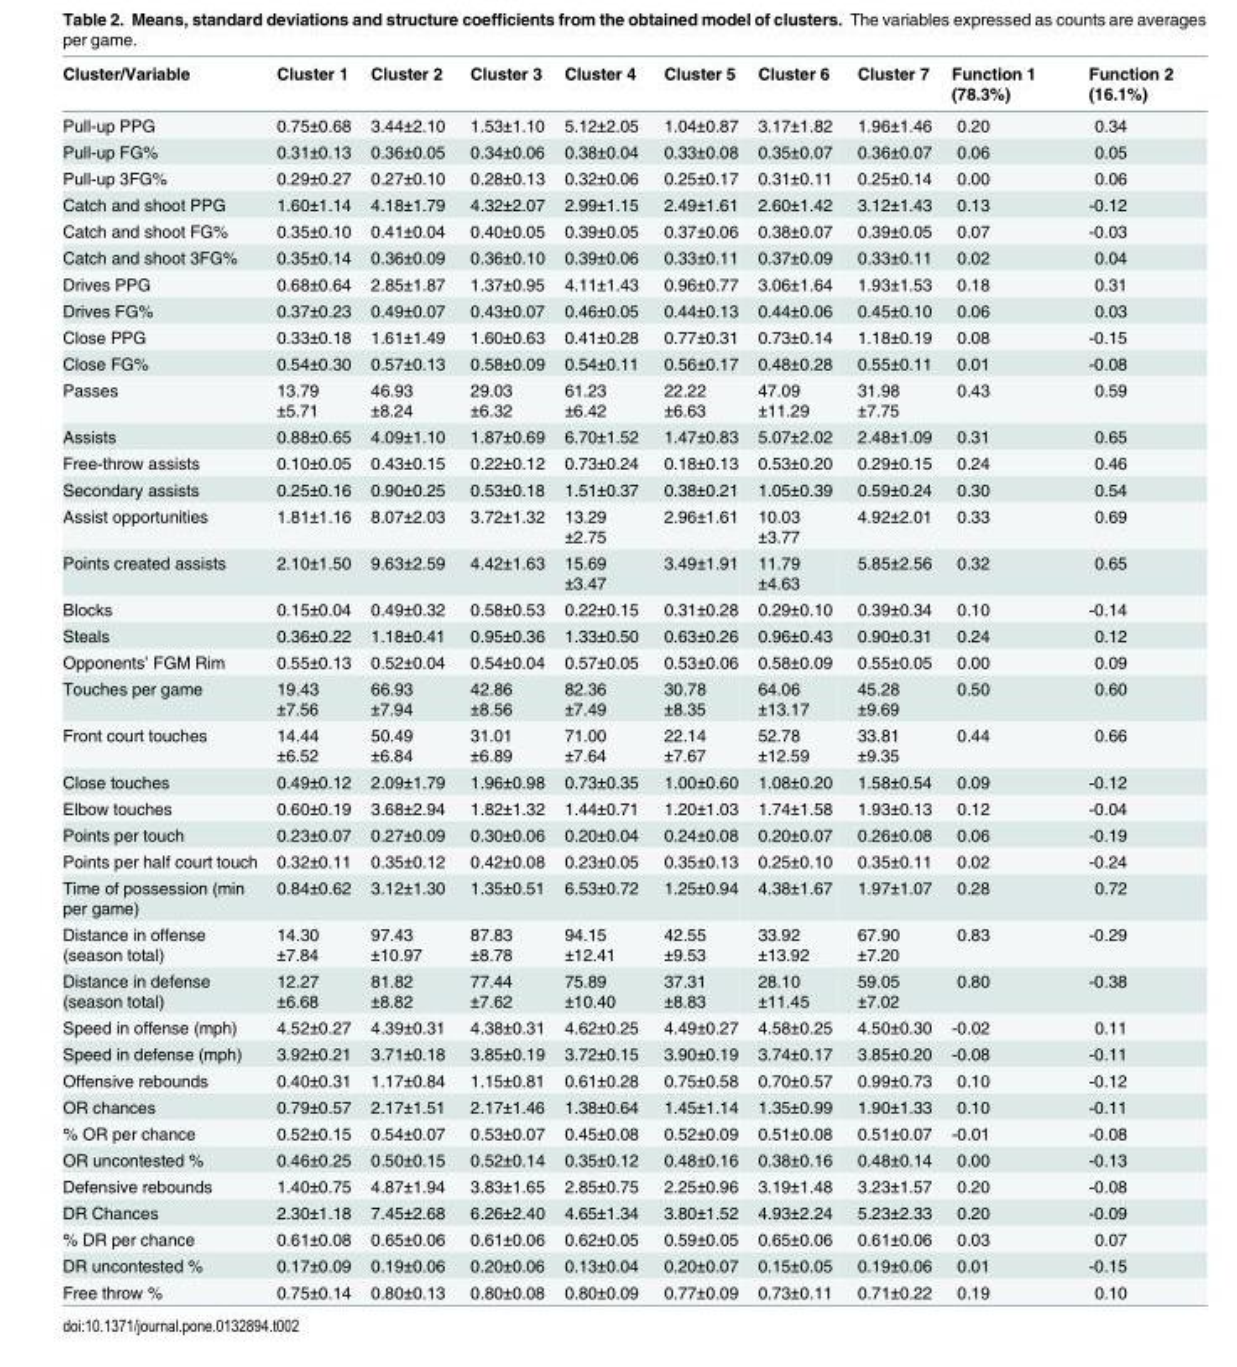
<table><thead><tr><td>Cluster/Variable</td><td>Cluster 1</td><td>Cluster 2</td><td>Cluster 3</td><td>Cluster 4</td><td>Cluster 5</td><td>Cluster 6</td><td>Cluster 7</td><td>Function 1 (78.3%)</td><td>Function 2 (16.1%)</td></tr></thead><tbody><tr><td>Pull-up PPG</td><td>0.75±0.68</td><td>3.44±2.10</td><td>1.53±1.10</td><td>5.12±2.05</td><td>1.04±0.87</td><td>3.17±1.82</td><td>1.96±1.46</td><td>0.20</td><td>0.34</td></tr><tr><td>Pull-up FG%</td><td>0.31±0.13</td><td>0.36±0.05</td><td>0.34±0.06</td><td>0.38±0.04</td><td>0.33±0.08</td><td>0.35±0.07</td><td>0.36±0.07</td><td>0.06</td><td>0.05</td></tr><tr><td>Pull-up 3FG%</td><td>0.29±0.27</td><td>0.27±0.10</td><td>0.28±0.13</td><td>0.32±0.06</td><td>0.25±0.17</td><td>0.31±0.11</td><td>0.25±0.14</td><td>0.00</td><td>0.06</td></tr><tr><td>Catch and shoot PPG</td><td>1.60±1.14</td><td>4.18±1.79</td><td>4.32±2.07</td><td>2.99±1.15</td><td>2.49±1.61</td><td>2.60±1.42</td><td>3.12±1.43</td><td>0.13</td><td>-0.12</td></tr><tr><td>Catch and shoot FG%</td><td>0.35±0.10</td><td>0.41±0.04</td><td>0.40±0.05</td><td>0.39±0.05</td><td>0.37±0.06</td><td>0.38±0.07</td><td>0.39±0.05</td><td>0.07</td><td>-0.03</td></tr><tr><td>Catch and shoot 3FG%</td><td>0.35±0.14</td><td>0.36±0.09</td><td>0.36±0.10</td><td>0.39±0.06</td><td>0.33±0.11</td><td>0.37±0.09</td><td>0.33±0.11</td><td>0.02</td><td>0.04</td></tr><tr><td>Drives PPG</td><td>0.68±0.64</td><td>2.85±1.87</td><td>1.37±0.95</td><td>4.11±1.43</td><td>0.96±0.77</td><td>3.06±1.64</td><td>1.93±1.53</td><td>0.18</td><td>0.31</td></tr><tr><td>Drives FG%</td><td>0.37±0.23</td><td>0.49±0.07</td><td>0.43±0.07</td><td>0.46±0.05</td><td>0.44±0.13</td><td>0.44±0.06</td><td>0.45±0.10</td><td>0.06</td><td>0.03</td></tr><tr><td>Close PPG</td><td>0.33±0.18</td><td>1.61±1.49</td><td>1.60±0.63</td><td>0.41±0.28</td><td>0.77±0.31</td><td>0.73±0.14</td><td>1.18±0.19</td><td>0.08</td><td>-0.15</td></tr><tr><td>Close FG%</td><td>0.54±0.30</td><td>0.57±0.13</td><td>0.58±0.09</td><td>0.54±0.11</td><td>0.56±0.17</td><td>0.48±0.28</td><td>0.55±0.11</td><td>0.01</td><td>-0.08</td></tr><tr><td>Passes</td><td>13.79 ±5.71</td><td>46.93 ±8.24</td><td>29.03 ±6.32</td><td>61.23 ±6.42</td><td>22.22 ±6.63</td><td>47.09 ±11.29</td><td>31.98 ±7.75</td><td>0.43</td><td>0.59</td></tr><tr><td>Assists</td><td>0.88±0.65</td><td>4.09±1.10</td><td>1.87±0.69</td><td>6.70±1.52</td><td>1.47±0.83</td><td>5.07±2.02</td><td>2.48±1.09</td><td>0.31</td><td>0.65</td></tr><tr><td>Free-throw assists</td><td>0.10±0.05</td><td>0.43±0.15</td><td>0.22±0.12</td><td>0.73±0.24</td><td>0.18±0.13</td><td>0.53±0.20</td><td>0.29±0.15</td><td>0.24</td><td>0.46</td></tr><tr><td>Secondary assists</td><td>0.25±0.16</td><td>0.90±0.25</td><td>0.53±0.18</td><td>1.51±0.37</td><td>0.38±0.21</td><td>1.05±0.39</td><td>0.59±0.24</td><td>0.30</td><td>0.54</td></tr><tr><td>Assist opportunities</td><td>1.81±1.16</td><td>8.07±2.03</td><td>3.72±1.32</td><td>13.29 ±2.75</td><td>2.96±1.61</td><td>10.03 ±3.77</td><td>4.92±2.01</td><td>0.33</td><td>0.69</td></tr><tr><td>Points created assists</td><td>2.10±1.50</td><td>9.63±2.59</td><td>4.42±1.63</td><td>15.69 ±3.47</td><td>3.49±1.91</td><td>11.79 ±4.63</td><td>5.85±2.56</td><td>0.32</td><td>0.65</td></tr><tr><td>Blocks</td><td>0.15±0.04</td><td>0.49±0.32</td><td>0.58±0.53</td><td>0.22±0.15</td><td>0.31±0.28</td><td>0.29±0.10</td><td>0.39±0.34</td><td>0.10</td><td>-0.14</td></tr><tr><td>Steals</td><td>0.36±0.22</td><td>1.18±0.41</td><td>0.95±0.36</td><td>1.33±0.50</td><td>0.63±0.26</td><td>0.96±0.43</td><td>0.90±0.31</td><td>0.24</td><td>0.12</td></tr><tr><td>Opponents’ FGM Rim</td><td>0.55±0.13</td><td>0.52±0.04</td><td>0.54±0.04</td><td>0.57±0.05</td><td>0.53±0.06</td><td>0.58±0.09</td><td>0.55±0.05</td><td>0.00</td><td>0.09</td></tr><tr><td>Touches per game</td><td>19.43 ±7.56</td><td>66.93 ±7.94</td><td>42.86 ±8.56</td><td>82.36 ±7.49</td><td>30.78 ±8.35</td><td>64.06 ±13.17</td><td>45.28 ±9.69</td><td>0.50</td><td>0.60</td></tr><tr><td>Front court touches</td><td>14.44 ±6.52</td><td>50.49 ±6.84</td><td>31.01 ±6.89</td><td>71.00 ±7.64</td><td>22.14 ±7.67</td><td>52.78 ±12.59</td><td>33.81 ±9.35</td><td>0.44</td><td>0.66</td></tr><tr><td>Close touches</td><td>0.49±0.12</td><td>2.09±1.79</td><td>1.96±0.98</td><td>0.73±0.35</td><td>1.00±0.60</td><td>1.08±0.20</td><td>1.58±0.54</td><td>0.09</td><td>-0.12</td></tr><tr><td>Elbow touches</td><td>0.60±0.19</td><td>3.68±2.94</td><td>1.82±1.32</td><td>1.44±0.71</td><td>1.20±1.03</td><td>1.74±1.58</td><td>1.93±0.13</td><td>0.12</td><td>-0.04</td></tr><tr><td>Points per touch</td><td>0.23±0.07</td><td>0.27±0.09</td><td>0.30±0.06</td><td>0.20±0.04</td><td>0.24±0.08</td><td>0.20±0.07</td><td>0.26±0.08</td><td>0.06</td><td>-0.19</td></tr><tr><td>Points per half court touch</td><td>0.32±0.11</td><td>0.35±0.12</td><td>0.42±0.08</td><td>0.23±0.05</td><td>0.35±0.13</td><td>0.25±0.10</td><td>0.35±0.11</td><td>0.02</td><td>-0.24</td></tr><tr><td>Time of possession (min per game)</td><td>0.84±0.62</td><td>3.12±1.30</td><td>1.35±0.51</td><td>6.53±0.72</td><td>1.25±0.94</td><td>4.38±1.67</td><td>1.97±1.07</td><td>0.28</td><td>0.72</td></tr><tr><td>Distance in offense (season total)</td><td>14.30 ±7.84</td><td>97.43 ±10.97</td><td>87.83 ±8.78</td><td>94.15 ±12.41</td><td>42.55 ±9.53</td><td>33.92 ±13.92</td><td>67.90 ±7.20</td><td>0.83</td><td>-0.29</td></tr><tr><td>Distance in defense (season total)</td><td>12.27 ±6.68</td><td>81.82 ±8.82</td><td>77.44 ±7.62</td><td>75.89 ±10.40</td><td>37.31 ±8.83</td><td>28.10 ±11.45</td><td>59.05 ±7.02</td><td>0.80</td><td>-0.38</td></tr><tr><td>Speed in offense (mph)</td><td>4.52±0.27</td><td>4.39±0.31</td><td>4.38±0.31</td><td>4.62±0.25</td><td>4.49±0.27</td><td>4.58±0.25</td><td>4.50±0.30</td><td>-0.02</td><td>0.11</td></tr><tr><td>Speed in defense (mph)</td><td>3.92±0.21</td><td>3.71±0.18</td><td>3.85±0.19</td><td>3.72±0.15</td><td>3.90±0.19</td><td>3.74±0.17</td><td>3.85±0.20</td><td>-0.08</td><td>-0.11</td></tr><tr><td>Offensive rebounds</td><td>0.40±0.31</td><td>1.17±0.84</td><td>1.15±0.81</td><td>0.61±0.28</td><td>0.75±0.58</td><td>0.70±0.57</td><td>0.99±0.73</td><td>0.10</td><td>-0.12</td></tr><tr><td>OR chances</td><td>0.79±0.57</td><td>2.17±1.51</td><td>2.17±1.46</td><td>1.38±0.64</td><td>1.45±1.14</td><td>1.35±0.99</td><td>1.90±1.33</td><td>0.10</td><td>-0.11</td></tr><tr><td>% OR per chance</td><td>0.52±0.15</td><td>0.54±0.07</td><td>0.53±0.07</td><td>0.45±0.08</td><td>0.52±0.09</td><td>0.51±0.08</td><td>0.51±0.07</td><td>-0.01</td><td>-0.08</td></tr><tr><td>OR uncontested %</td><td>0.46±0.25</td><td>0.50±0.15</td><td>0.52±0.14</td><td>0.35±0.12</td><td>0.48±0.16</td><td>0.38±0.16</td><td>0.48±0.14</td><td>0.00</td><td>-0.13</td></tr><tr><td>Defensive rebounds</td><td>1.40±0.75</td><td>4.87±1.94</td><td>3.83±1.65</td><td>2.85±0.75</td><td>2.25±0.96</td><td>3.19±1.48</td><td>3.23±1.57</td><td>0.20</td><td>-0.08</td></tr><tr><td>DR Chances</td><td>2.30±1.18</td><td>7.45±2.68</td><td>6.26±2.40</td><td>4.65±1.34</td><td>3.80±1.52</td><td>4.93±2.24</td><td>5.23±2.33</td><td>0.20</td><td>-0.09</td></tr><tr><td>% DR per chance</td><td>0.61±0.08</td><td>0.65±0.06</td><td>0.61±0.06</td><td>0.62±0.05</td><td>0.59±0.05</td><td>0.65±0.06</td><td>0.61±0.06</td><td>0.03</td><td>0.07</td></tr><tr><td>DR uncontested %</td><td>0.17±0.09</td><td>0.19±0.06</td><td>0.20±0.06</td><td>0.13±0.04</td><td>0.20±0.07</td><td>0.15±0.05</td><td>0.19±0.06</td><td>0.01</td><td>-0.15</td></tr><tr><td>Free throw %</td><td>0.75±0.14</td><td>0.80±0.13</td><td>0.80±0.08</td><td>0.80±0.09</td><td>0.77±0.09</td><td>0.73±0.11</td><td>0.71±0.22</td><td>0.19</td><td>0.10</td></tr></tbody></table>